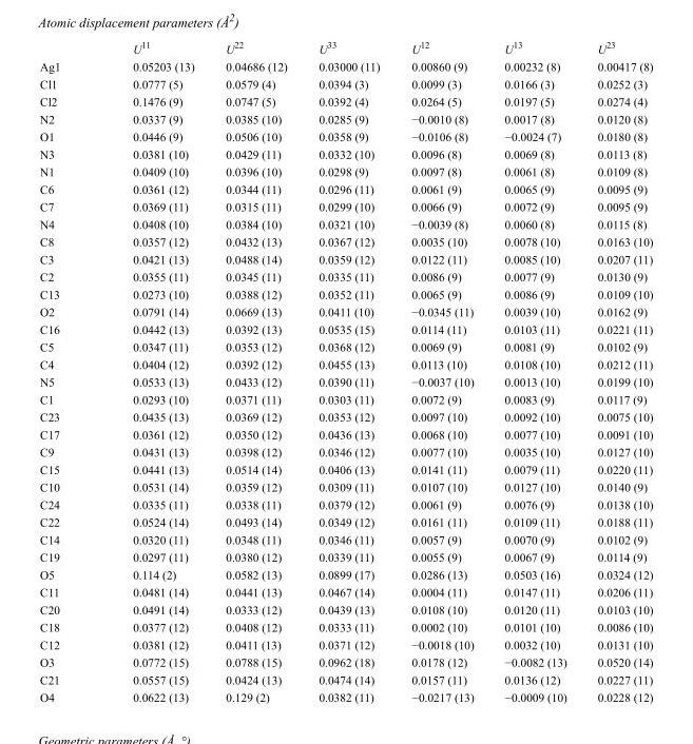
<table><thead><tr><td></td><td>U<sup>11</sup></td><td>U<sup>22</sup></td><td>U<sup>33</sup></td><td>U<sup>12</sup></td><td>U<sup>13</sup></td><td>U<sup>23</sup></td></tr></thead><tbody><tr><td>Ag1</td><td>0.05203 (13)</td><td>0.04686 (12)</td><td>0.03000 (11)</td><td>0.00860 (9)</td><td>0.00232 (8)</td><td>0.00417 (8)</td></tr><tr><td>Cl1</td><td>0.0777 (5)</td><td>0.0579 (4)</td><td>0.0394 (3)</td><td>0.0099 (3)</td><td>0.0166 (3)</td><td>0.0252 (3)</td></tr><tr><td>Cl2</td><td>0.1476 (9)</td><td>0.0747 (5)</td><td>0.0392 (4)</td><td>0.0264 (5)</td><td>0.0197 (5)</td><td>0.0274 (4)</td></tr><tr><td>N2</td><td>0.0337 (9)</td><td>0.0385 (10)</td><td>0.0285 (9)</td><td>−0.0010 (8)</td><td>0.0017 (8)</td><td>0.0120 (8)</td></tr><tr><td>O1</td><td>0.0446 (9)</td><td>0.0506 (10)</td><td>0.0358 (9)</td><td>−0.0106 (8)</td><td>−0.0024 (7)</td><td>0.0180 (8)</td></tr><tr><td>N3</td><td>0.0381 (10)</td><td>0.0429 (11)</td><td>0.0332 (10)</td><td>0.0096 (8)</td><td>0.0069 (8)</td><td>0.0113 (8)</td></tr><tr><td>N1</td><td>0.0409 (10)</td><td>0.0396 (10)</td><td>0.0298 (9)</td><td>0.0097 (8)</td><td>0.0061 (8)</td><td>0.0109 (8)</td></tr><tr><td>C6</td><td>0.0361 (12)</td><td>0.0344 (11)</td><td>0.0296 (11)</td><td>0.0061 (9)</td><td>0.0065 (9)</td><td>0.0095 (9)</td></tr><tr><td>C7</td><td>0.0369 (11)</td><td>0.0315 (11)</td><td>0.0299 (10)</td><td>0.0066 (9)</td><td>0.0072 (9)</td><td>0.0095 (9)</td></tr><tr><td>N4</td><td>0.0408 (10)</td><td>0.0384 (10)</td><td>0.0321 (10)</td><td>−0.0039 (8)</td><td>0.0060 (8)</td><td>0.0115 (8)</td></tr><tr><td>C8</td><td>0.0357 (12)</td><td>0.0432 (13)</td><td>0.0367 (12)</td><td>0.0035 (10)</td><td>0.0078 (10)</td><td>0.0163 (10)</td></tr><tr><td>C3</td><td>0.0421 (13)</td><td>0.0488 (14)</td><td>0.0359 (12)</td><td>0.0122 (11)</td><td>0.0085 (10)</td><td>0.0207 (11)</td></tr><tr><td>C2</td><td>0.0355 (11)</td><td>0.0345 (11)</td><td>0.0335 (11)</td><td>0.0086 (9)</td><td>0.0077 (9)</td><td>0.0130 (9)</td></tr><tr><td>C13</td><td>0.0273 (10)</td><td>0.0388 (12)</td><td>0.0352 (11)</td><td>0.0065 (9)</td><td>0.0086 (9)</td><td>0.0109 (10)</td></tr><tr><td>O2</td><td>0.0791 (14)</td><td>0.0669 (13)</td><td>0.0411 (10)</td><td>−0.0345 (11)</td><td>0.0039 (10)</td><td>0.0162 (9)</td></tr><tr><td>C16</td><td>0.0442 (13)</td><td>0.0392 (13)</td><td>0.0535 (15)</td><td>0.0114 (11)</td><td>0.0103 (11)</td><td>0.0221 (11)</td></tr><tr><td>C5</td><td>0.0347 (11)</td><td>0.0353 (12)</td><td>0.0368 (12)</td><td>0.0069 (9)</td><td>0.0081 (9)</td><td>0.0102 (9)</td></tr><tr><td>C4</td><td>0.0404 (12)</td><td>0.0392 (12)</td><td>0.0455 (13)</td><td>0.0113 (10)</td><td>0.0108 (10)</td><td>0.0212 (11)</td></tr><tr><td>N5</td><td>0.0533 (13)</td><td>0.0433 (12)</td><td>0.0390 (11)</td><td>−0.0037 (10)</td><td>0.0013 (10)</td><td>0.0199 (10)</td></tr><tr><td>C1</td><td>0.0293 (10)</td><td>0.0371 (11)</td><td>0.0303 (11)</td><td>0.0072 (9)</td><td>0.0083 (9)</td><td>0.0117 (9)</td></tr><tr><td>C23</td><td>0.0435 (13)</td><td>0.0369 (12)</td><td>0.0353 (12)</td><td>0.0097 (10)</td><td>0.0092 (10)</td><td>0.0075 (10)</td></tr><tr><td>C17</td><td>0.0361 (12)</td><td>0.0350 (12)</td><td>0.0436 (13)</td><td>0.0068 (10)</td><td>0.0077 (10)</td><td>0.0091 (10)</td></tr><tr><td>C9</td><td>0.0431 (13)</td><td>0.0398 (12)</td><td>0.0346 (12)</td><td>0.0077 (10)</td><td>0.0035 (10)</td><td>0.0127 (10)</td></tr><tr><td>C15</td><td>0.0441 (13)</td><td>0.0514 (14)</td><td>0.0406 (13)</td><td>0.0141 (11)</td><td>0.0079 (11)</td><td>0.0220 (11)</td></tr><tr><td>C10</td><td>0.0531 (14)</td><td>0.0359 (12)</td><td>0.0309 (11)</td><td>0.0107 (10)</td><td>0.0127 (10)</td><td>0.0140 (9)</td></tr><tr><td>C24</td><td>0.0335 (11)</td><td>0.0338 (11)</td><td>0.0379 (12)</td><td>0.0061 (9)</td><td>0.0076 (9)</td><td>0.0138 (10)</td></tr><tr><td>C22</td><td>0.0524 (14)</td><td>0.0493 (14)</td><td>0.0349 (12)</td><td>0.0161 (11)</td><td>0.0109 (11)</td><td>0.0188 (11)</td></tr><tr><td>C14</td><td>0.0320 (11)</td><td>0.0348 (11)</td><td>0.0346 (11)</td><td>0.0057 (9)</td><td>0.0070 (9)</td><td>0.0102 (9)</td></tr><tr><td>C19</td><td>0.0297 (11)</td><td>0.0380 (12)</td><td>0.0339 (11)</td><td>0.0055 (9)</td><td>0.0067 (9)</td><td>0.0114 (9)</td></tr><tr><td>O5</td><td>0.114 (2)</td><td>0.0582 (13)</td><td>0.0899 (17)</td><td>0.0286 (13)</td><td>0.0503 (16)</td><td>0.0324 (12)</td></tr><tr><td>C11</td><td>0.0481 (14)</td><td>0.0441 (13)</td><td>0.0467 (14)</td><td>0.0004 (11)</td><td>0.0147 (11)</td><td>0.0206 (11)</td></tr><tr><td>C20</td><td>0.0491 (14)</td><td>0.0333 (12)</td><td>0.0439 (13)</td><td>0.0108 (10)</td><td>0.0120 (11)</td><td>0.0103 (10)</td></tr><tr><td>C18</td><td>0.0377 (12)</td><td>0.0408 (12)</td><td>0.0333 (11)</td><td>0.0002 (10)</td><td>0.0101 (10)</td><td>0.0086 (10)</td></tr><tr><td>C12</td><td>0.0381 (12)</td><td>0.0411 (13)</td><td>0.0371 (12)</td><td>−0.0018 (10)</td><td>0.0032 (10)</td><td>0.0131 (10)</td></tr><tr><td>O3</td><td>0.0772 (15)</td><td>0.0788 (15)</td><td>0.0962 (18)</td><td>0.0178 (12)</td><td>−0.0082 (13)</td><td>0.0520 (14)</td></tr><tr><td>C21</td><td>0.0557 (15)</td><td>0.0424 (13)</td><td>0.0474 (14)</td><td>0.0157 (11)</td><td>0.0136 (12)</td><td>0.0227 (11)</td></tr><tr><td>O4</td><td>0.0622 (13)</td><td>0.129 (2)</td><td>0.0382 (11)</td><td>−0.0217 (13)</td><td>−0.0009 (10)</td><td>0.0228 (12)</td></tr></tbody></table>